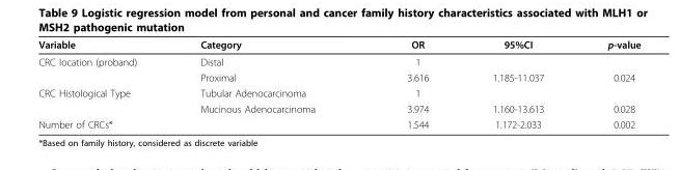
<table><thead><tr><td>Variable</td><td>Category</td><td>OR</td><td>95%CI</td><td>p-value</td></tr></thead><tbody><tr><td rowspan="2">CRC location (proband)</td><td>Distal</td><td>1</td><td></td><td></td></tr><tr><td>Proximal</td><td>3.616</td><td>1.185-11.037</td><td>0.024</td></tr><tr><td rowspan="2">CRC Histological Type</td><td>Tubular Adenocarcinoma</td><td>1</td><td></td><td></td></tr><tr><td>Mucinous Adenocarcinoma</td><td>3.974</td><td>1.160-13.613</td><td>0.028</td></tr><tr><td>Number of CRCs*</td><td></td><td>1.544</td><td>1.172-2.033</td><td>0.002</td></tr></tbody></table>